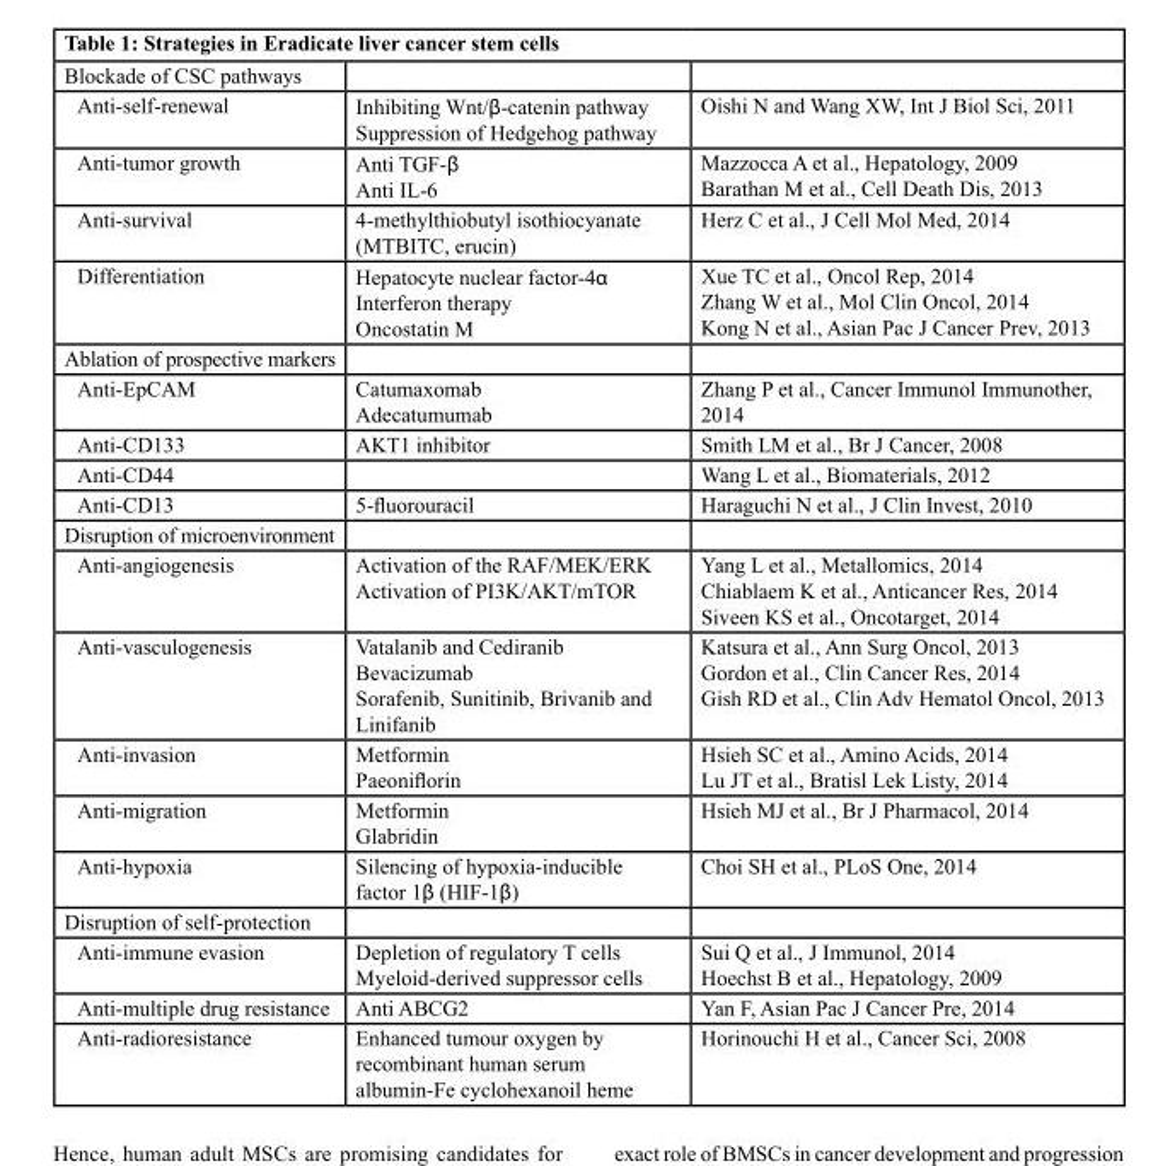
<table><tbody><tr><td colspan="3">Blockade of CSC pathways</td></tr><tr><td>Anti-self-renewal</td><td>Inhibiting Wnt/β-catenin pathway Suppression of Hedgehog pathway</td><td>Oishi N and Wang XW, Int J Biol Sci, 2011</td></tr><tr><td>Anti-tumor growth</td><td>Anti TGF-β Anti IL-6</td><td>Mazzocca A et al., Hepatology, 2009 Barathan M et al., Cell Death Dis, 2013</td></tr><tr><td>Anti-survival</td><td>4-methylthiobutyl isothiocyanate (MTBITC, erucin)</td><td>Herz C et al., J Cell Mol Med, 2014</td></tr><tr><td>Differentiation</td><td>Hepatocyte nuclear factor-4α Interferon therapy Oncostatin M</td><td>Xue TC et al., Oncol Rep, 2014 Zhang W et al., Mol Clin Oncol, 2014 Kong N et al., Asian Pac J Cancer Prev, 2013</td></tr><tr><td colspan="3">Ablation of prospective markers</td></tr><tr><td>Anti-EpCAM</td><td>Catumaxomab Adecatumumab</td><td>Zhang P et al., Cancer Immunol Immunother, 2014</td></tr><tr><td>Anti-CD133</td><td>AKT1 inhibitor</td><td>Smith LM et al., Br J Cancer, 2008</td></tr><tr><td>Anti-CD44</td><td></td><td>Wang L et al., Biomaterials, 2012</td></tr><tr><td>Anti-CD13</td><td>5-fluorouracil</td><td>Haraguchi N et al., J Clin Invest, 2010</td></tr><tr><td colspan="3">Disruption of microenvironment</td></tr><tr><td>Anti-angiogenesis</td><td>Activation of the RAF/MEK/ERK Activation of PI3K/AKT/mTOR</td><td>Yang L et al., Metallomics, 2014 Chiablaem K et al., Anticancer Res, 2014 Siveen KS et al., Oncotarget, 2014</td></tr><tr><td>Anti-vasculogenesis</td><td>Vatalanib and Cediranib Bevacizumab Sorafenib, Sunitinib, Brivanib and Linifanib</td><td>Katsura et al., Ann Surg Oncol, 2013 Gordon et al., Clin Cancer Res, 2014 Gish RD et al., Clin Adv Hematol Oncol, 2013</td></tr><tr><td>Anti-invasion</td><td>Metformin Paeoniflorin</td><td>Hsieh SC et al., Amino Acids, 2014 Lu JT et al., Bratisl Lek Listy, 2014</td></tr><tr><td>Anti-migration</td><td>Metformin Glabridin</td><td>Hsieh MJ et al., Br J Pharmacol, 2014</td></tr><tr><td>Anti-hypoxia</td><td>Silencing of hypoxia-inducible factor 1β (HIF-1β)</td><td>Choi SH et al., PLoS One, 2014</td></tr><tr><td colspan="3">Disruption of self-protection</td></tr><tr><td>Anti-immune evasion</td><td>Depletion of regulatory T cells Myeloid-derived suppressor cells</td><td>Sui Q et al., J Immunol, 2014 Hoechst B et al., Hepatology, 2009</td></tr><tr><td>Anti-multiple drug resistance</td><td>Anti ABCG2</td><td>Yan F, Asian Pac J Cancer Pre, 2014</td></tr><tr><td>Anti-radioresistance</td><td>Enhanced tumour oxygen by recombinant human serum albumin-Fe cyclohexanoil heme</td><td>Horinouchi H et al., Cancer Sci, 2008</td></tr></tbody></table>